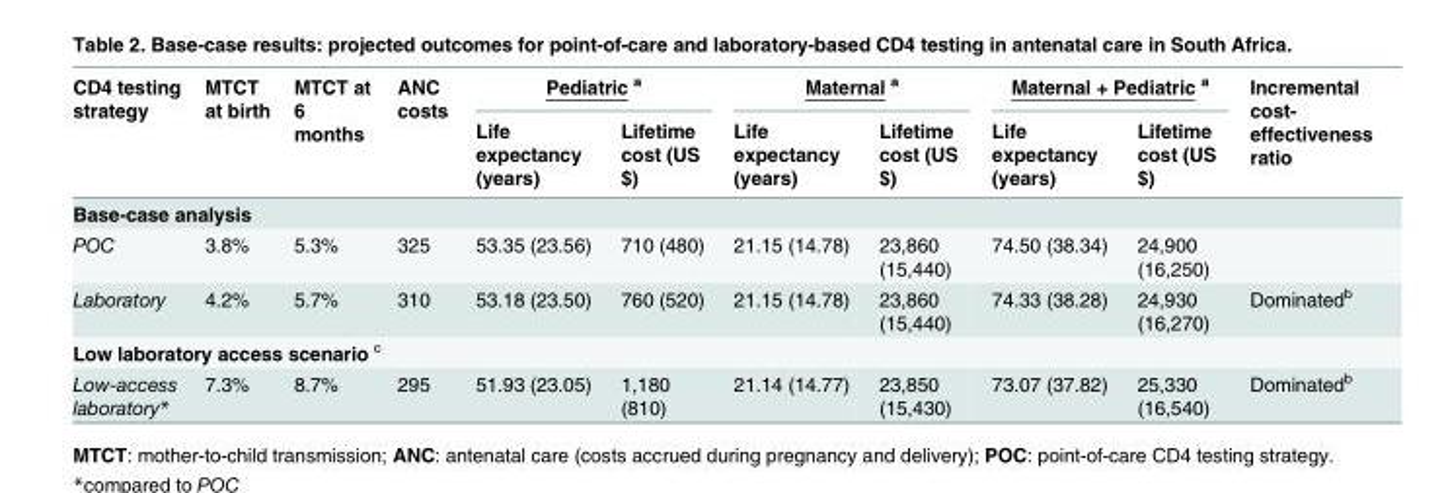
<table><thead><tr><td rowspan="2">CD4 testing strategy</td><td rowspan="2">MTCT at birth</td><td rowspan="2">MTCT at 6 months</td><td rowspan="2">ANC costs</td><td colspan="2">Pediatric <sup>a</sup></td><td colspan="2">Maternal <sup>a</sup></td><td colspan="2">Maternal + Pediatric <sup>a</sup></td><td rowspan="2">Incremental cost- effectiveness ratio</td></tr><tr><td>Life expectancy (years)</td><td>Lifetime cost (US $)</td><td>Life expectancy (years)</td><td>Lifetime cost (US $)</td><td>Life expectancy (years)</td><td>Lifetime cost (US $)</td></tr></thead><tbody><tr><td colspan="11">Base-case analysis</td></tr><tr><td>POC</td><td>3.8%</td><td>5.3%</td><td>325</td><td>53.35 (23.56)</td><td>710 (480)</td><td>21.15 (14.78)</td><td>23,860 (15,440)</td><td>74.50 (38.34)</td><td>24,900 (16,250)</td><td></td></tr><tr><td>Laboratory</td><td>4.2%</td><td>5.7%</td><td>310</td><td>53.18 (23.50)</td><td>760 (520)</td><td>21.15 (14.78)</td><td>23,860 (15,440)</td><td>74.33 (38.28)</td><td>24,930 (16,270)</td><td>Dominated<sup>b</sup></td></tr><tr><td colspan="11">Low laboratory access scenario <sup>c</sup></td></tr><tr><td>Low-access laboratory*</td><td>7.3%</td><td>8.7%</td><td>295</td><td>51.93 (23.05)</td><td>1,180 (810)</td><td>21.14 (14.77)</td><td>23,850 (15,430)</td><td>73.07 (37.82)</td><td>25,330 (16,540)</td><td>Dominated<sup>b</sup></td></tr></tbody></table>